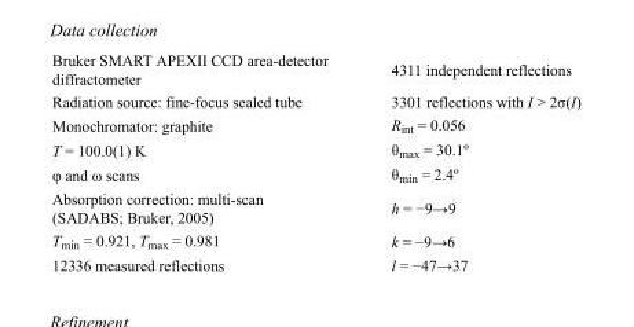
<table><tbody><tr><td>Bruker SMART APEXII CCD area-detector diffractometer</td><td>4311 independent reflections</td></tr><tr><td>Radiation source: fine-focus sealed tube</td><td>3301 reflections with I &gt; 2σ(I)</td></tr><tr><td>Monochromator: graphite</td><td>R<sub>int</sub> = 0.056</td></tr><tr><td>T = 100.0(1) K</td><td>θ<sub>max</sub> = 30.1º</td></tr><tr><td>φ and ω scans</td><td>θ<sub>min</sub> = 2.4º</td></tr><tr><td>Absorption correction: multi-scan (SADABS; Bruker, 2005)</td><td>h = −9→9</td></tr><tr><td>T<sub>min</sub> = 0.921, T<sub>max</sub> = 0.981</td><td>k = −9→6</td></tr><tr><td>12336 measured reflections</td><td>l = −47→37</td></tr></tbody></table>